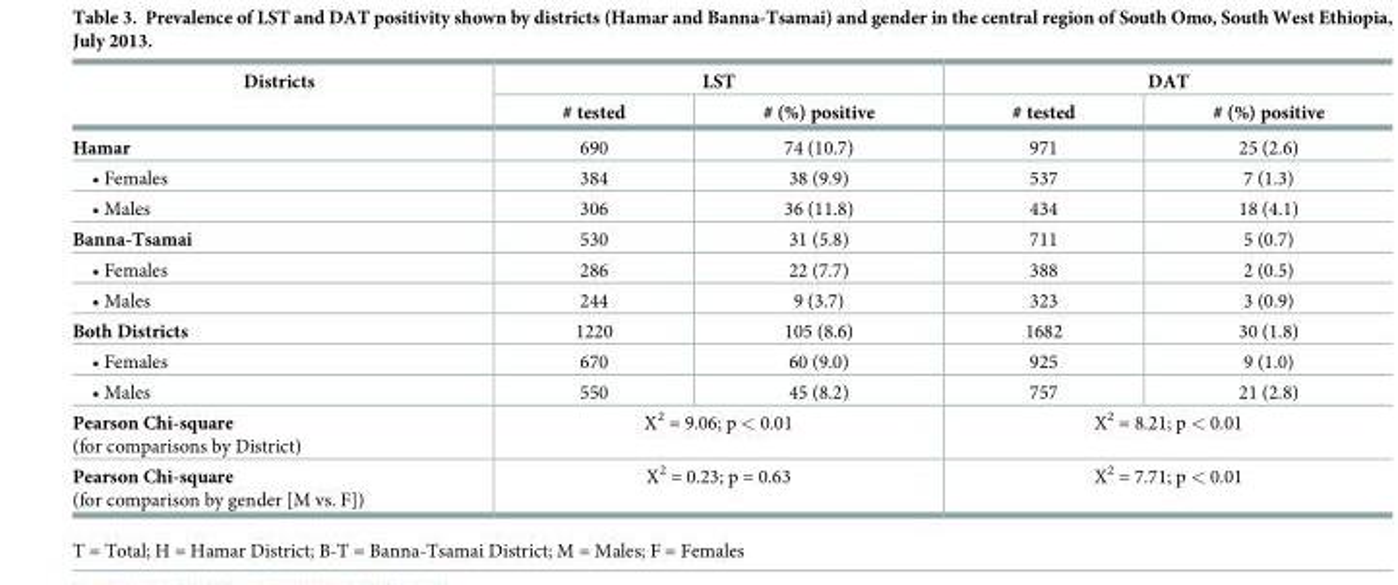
<table><thead><tr><td rowspan="2">Districts</td><td colspan="2">LST</td><td colspan="2">DAT</td></tr><tr><td># tested</td><td># (%) positive</td><td># tested</td><td># (%) positive</td></tr></thead><tbody><tr><td>Hamar</td><td>690</td><td>74 (10.7)</td><td>971</td><td>25 (2.6)</td></tr><tr><td>• Females</td><td>384</td><td>38 (9.9)</td><td>537</td><td>7 (1.3)</td></tr><tr><td>• Males</td><td>306</td><td>36 (11.8)</td><td>434</td><td>18 (4.1)</td></tr><tr><td>Banna-Tsamai</td><td>530</td><td>31 (5.8)</td><td>711</td><td>5 (0.7)</td></tr><tr><td>• Females</td><td>286</td><td>22 (7.7)</td><td>388</td><td>2 (0.5)</td></tr><tr><td>• Males</td><td>244</td><td>9 (3.7)</td><td>323</td><td>3 (0.9)</td></tr><tr><td>Both Districts</td><td>1220</td><td>105 (8.6)</td><td>1682</td><td>30 (1.8)</td></tr><tr><td>• Females</td><td>670</td><td>60 (9.0)</td><td>925</td><td>9 (1.0)</td></tr><tr><td>• Males</td><td>550</td><td>45 (8.2)</td><td>757</td><td>21 (2.8)</td></tr><tr><td>Pearson Chi-square (for comparisons by District)</td><td colspan="2">X<sup>2</sup> = 9.06; p &lt; 0.01</td><td colspan="2">X<sup>2</sup> = 8.21; p &lt; 0.01</td></tr><tr><td>Pearson Chi-square (for comparison by gender [M vs. F])</td><td colspan="2">X<sup>2</sup> = 0.23; p = 0.63</td><td colspan="2">X<sup>2</sup> = 7.71; p &lt; 0.01</td></tr></tbody></table>